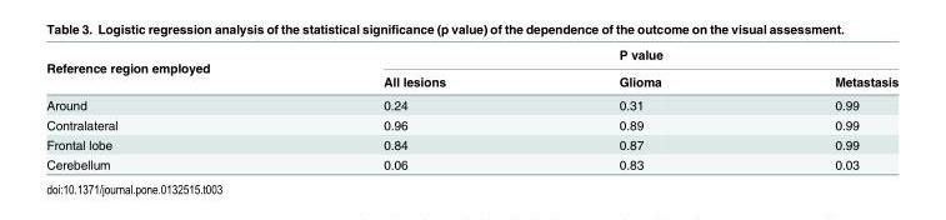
<table><thead><tr><td rowspan="2">Reference region employed</td><td colspan="3">P value</td></tr><tr><td>All lesions</td><td>Glioma</td><td>Metastasis</td></tr></thead><tbody><tr><td>Around</td><td>0.24</td><td>0.31</td><td>0.99</td></tr><tr><td>Contralateral</td><td>0.96</td><td>0.89</td><td>0.99</td></tr><tr><td>Frontal lobe</td><td>0.84</td><td>0.87</td><td>0.99</td></tr><tr><td>Cerebellum</td><td>0.06</td><td>0.83</td><td>0.03</td></tr></tbody></table>